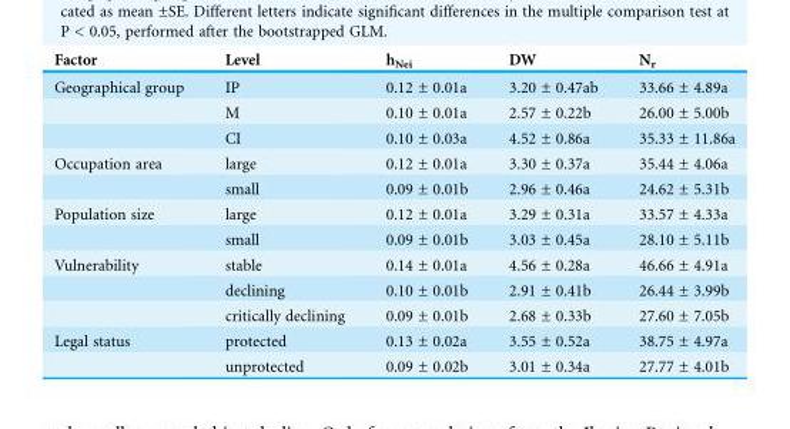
<table><thead><tr><td>Factor</td><td>Level</td><td>h<sub>Nei</sub></td><td>DW</td><td>N<sub>r</sub></td></tr></thead><tbody><tr><td rowspan="3">Geographical group</td><td>IP</td><td>0.12 ± 0.01a</td><td>3.20 ± 0.47ab</td><td>33.66 ± 4.89a</td></tr><tr><td>M</td><td>0.10 ± 0.01a</td><td>2.57 ± 0.22b</td><td>26.00 ± 5.00b</td></tr><tr><td>CI</td><td>0.10 ± 0.03a</td><td>4.52 ± 0.86a</td><td>35.33 ± 11.86a</td></tr><tr><td rowspan="2">Occupation area</td><td>large</td><td>0.12 ± 0.01a</td><td>3.30 ± 0.37a</td><td>35.44 ± 4.06a</td></tr><tr><td>small</td><td>0.09 ± 0.01b</td><td>2.96 ± 0.46a</td><td>24.62 ± 5.31b</td></tr><tr><td rowspan="2">Population size</td><td>large</td><td>0.12 ± 0.01a</td><td>3.29 ± 0.31a</td><td>33.57 ± 4.33a</td></tr><tr><td>small</td><td>0.09 ± 0.01b</td><td>3.03 ± 0.45a</td><td>28.10 ± 5.11b</td></tr><tr><td rowspan="3">Vulnerability</td><td>stable</td><td>0.14 ± 0.01a</td><td>4.56 ± 0.28a</td><td>46.66 ± 4.91a</td></tr><tr><td>declining</td><td>0.10 ± 0.01b</td><td>2.91 ± 0.41b</td><td>26.44 ± 3.99b</td></tr><tr><td>critically declining</td><td>0.09 ± 0.01b</td><td>2.68 ± 0.33b</td><td>27.60 ± 7.05b</td></tr><tr><td rowspan="2">Legal status</td><td>protected</td><td>0.13 ± 0.02a</td><td>3.55 ± 0.52a</td><td>38.75 ± 4.97a</td></tr><tr><td>unprotected</td><td>0.09 ± 0.02b</td><td>3.01 ± 0.34a</td><td>27.77 ± 4.01b</td></tr></tbody></table>